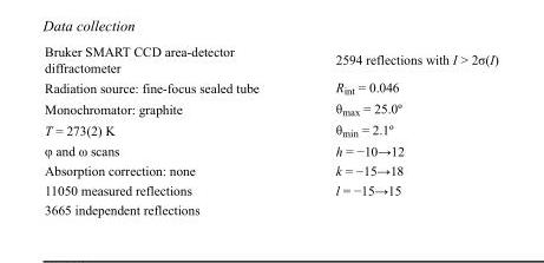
<table><tbody><tr><td>Bruker SMART CCD area-detector diffractometer</td><td>2594 reflections with I &gt; 2σ(I)</td></tr><tr><td>Radiation source: fine-focus sealed tube</td><td>R<sub>int</sub> = 0.046</td></tr><tr><td>Monochromator: graphite</td><td>θ<sub>max</sub> = 25.0º</td></tr><tr><td>T = 273(2) K</td><td>θ<sub>min</sub> = 2.1º</td></tr><tr><td>φ and ω scans</td><td>h = −10→12</td></tr><tr><td>Absorption correction: none</td><td>k = −15→18</td></tr><tr><td>11050 measured reflections</td><td>l = −15→15</td></tr><tr><td>3665 independent reflections</td><td></td></tr></tbody></table>